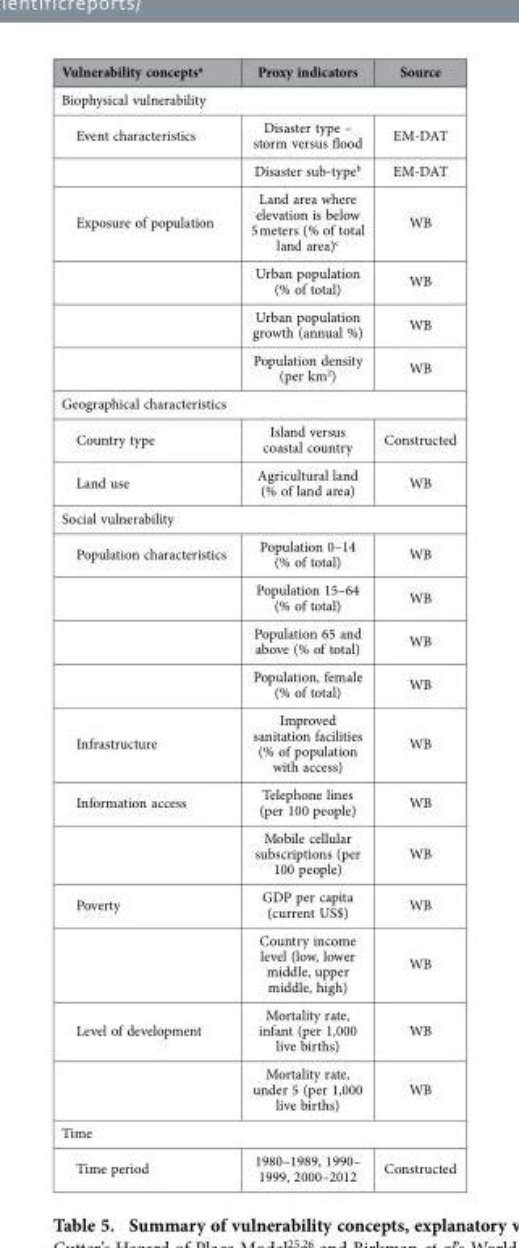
<table><thead><tr><td>Vulnerability concepts<sup>a</sup></td><td>Proxy indicators</td><td>Source</td></tr></thead><tbody><tr><td colspan="3">Biophysical vulnerability</td></tr><tr><td rowspan="2">Event characteristics</td><td>Disaster type – storm versus flood</td><td>EM-DAT</td></tr><tr><td>Disaster sub-type<sup>b</sup></td><td>EM-DAT</td></tr><tr><td rowspan="4">Exposure of population</td><td>Land area where elevation is below 5 meters (% of total land area)<sup>c</sup></td><td>WB</td></tr><tr><td>Urban population (% of total)</td><td>WB</td></tr><tr><td>Urban population growth (annual %)</td><td>WB</td></tr><tr><td>Population density (per km<sup>2</sup>)</td><td>WB</td></tr><tr><td colspan="3">Geographical characteristics</td></tr><tr><td>Country type</td><td>Island versus coastal country</td><td>Constructed</td></tr><tr><td>Land use</td><td>Agricultural land (% of land area)</td><td>WB</td></tr><tr><td colspan="3">Social vulnerability</td></tr><tr><td rowspan="4">Population characteristics</td><td>Population 0–14 (% of total)</td><td>WB</td></tr><tr><td>Population 15–64 (% of total)</td><td>WB</td></tr><tr><td>Population 65 and above (% of total)</td><td>WB</td></tr><tr><td>Population, female (% of total)</td><td>WB</td></tr><tr><td>Infrastructure</td><td>Improved sanitation facilities (% of population with access)</td><td>WB</td></tr><tr><td rowspan="2">Information access</td><td>Telephone lines (per 100 people)</td><td>WB</td></tr><tr><td>Mobile cellular subscriptions (per 100 people)</td><td>WB</td></tr><tr><td rowspan="2">Poverty</td><td>GDP per capita (current US$)</td><td>WB</td></tr><tr><td>Country income level (low, lower middle, upper middle, high)</td><td>WB</td></tr><tr><td rowspan="2">Level of development</td><td>Mortality rate, infant (per 1,000 live births)</td><td>WB</td></tr><tr><td>Mortality rate, under 5 (per 1,000 live births)</td><td>WB</td></tr><tr><td colspan="3">Time</td></tr><tr><td>Time period</td><td>1980–1989, 1990– 1999, 2000–2012</td><td>Constructed</td></tr></tbody></table>